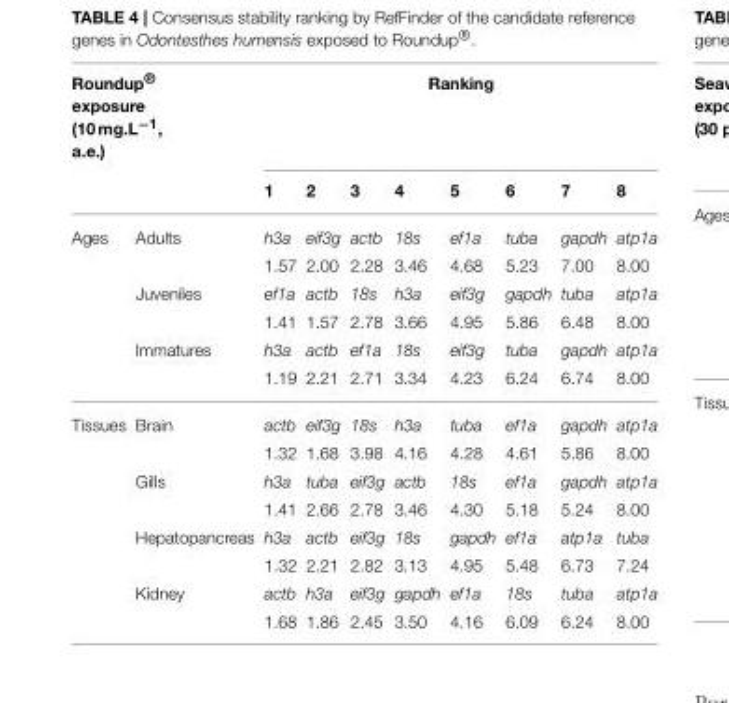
<table><thead><tr><td colspan="2">Roundup® exposure (10 mg.L<sup>−1</sup>, a.e.)</td><td colspan="8">Ranking</td></tr><tr><td></td><td></td><td>1</td><td>2</td><td>3</td><td>4</td><td>5</td><td>6</td><td>7</td><td>8</td></tr></thead><tbody><tr><td rowspan="6">Ages</td><td>Adults</td><td>h3a</td><td>eif3g</td><td>actb</td><td>18s</td><td>ef1a</td><td>tuba</td><td>gapdh</td><td>atp1a</td></tr><tr><td></td><td>1.57</td><td>2.00</td><td>2.28</td><td>3.46</td><td>4.68</td><td>5.23</td><td>7.00</td><td>8.00</td></tr><tr><td>Juveniles</td><td>ef1a</td><td>actb</td><td>18s</td><td>h3a</td><td>eif3g</td><td>gapdh</td><td>tuba</td><td>atp1a</td></tr><tr><td></td><td>1.41</td><td>1.57</td><td>2.78</td><td>3.66</td><td>4.95</td><td>5.86</td><td>6.48</td><td>8.00</td></tr><tr><td>Immatures</td><td>h3a</td><td>actb</td><td>ef1a</td><td>18s</td><td>eif3g</td><td>tuba</td><td>gapdh</td><td>atp1a</td></tr><tr><td></td><td>1.19</td><td>2.21</td><td>2.71</td><td>3.34</td><td>4.23</td><td>6.24</td><td>6.74</td><td>8.00</td></tr><tr><td rowspan="8">Tissues</td><td>Brain</td><td>actb</td><td>eif3g</td><td>18s</td><td>h3a</td><td>tuba</td><td>ef1a</td><td>gapdh</td><td>atp1a</td></tr><tr><td></td><td>1.32</td><td>1.68</td><td>3.98</td><td>4.16</td><td>4.28</td><td>4.61</td><td>5.86</td><td>8.00</td></tr><tr><td>Gills</td><td>h3a</td><td>tuba</td><td>eif3g</td><td>actb</td><td>18s</td><td>ef1a</td><td>gapdh</td><td>atp1a</td></tr><tr><td></td><td>1.41</td><td>2.66</td><td>2.78</td><td>3.46</td><td>4.30</td><td>5.18</td><td>5.24</td><td>8.00</td></tr><tr><td>Hepatopancreas</td><td>h3a</td><td>actb</td><td>eif3g</td><td>18s</td><td>gapdh</td><td>ef1a</td><td>atp1a</td><td>tuba</td></tr><tr><td></td><td>1.32</td><td>2.21</td><td>2.82</td><td>3.13</td><td>4.95</td><td>5.48</td><td>6.73</td><td>7.24</td></tr><tr><td>Kidney</td><td>actb</td><td>h3a</td><td>eif3g</td><td>gapdh</td><td>ef1a</td><td>18s</td><td>tuba</td><td>atp1a</td></tr><tr><td></td><td>1.68</td><td>1.86</td><td>2.45</td><td>3.50</td><td>4.16</td><td>6.09</td><td>6.24</td><td>8.00</td></tr></tbody></table>